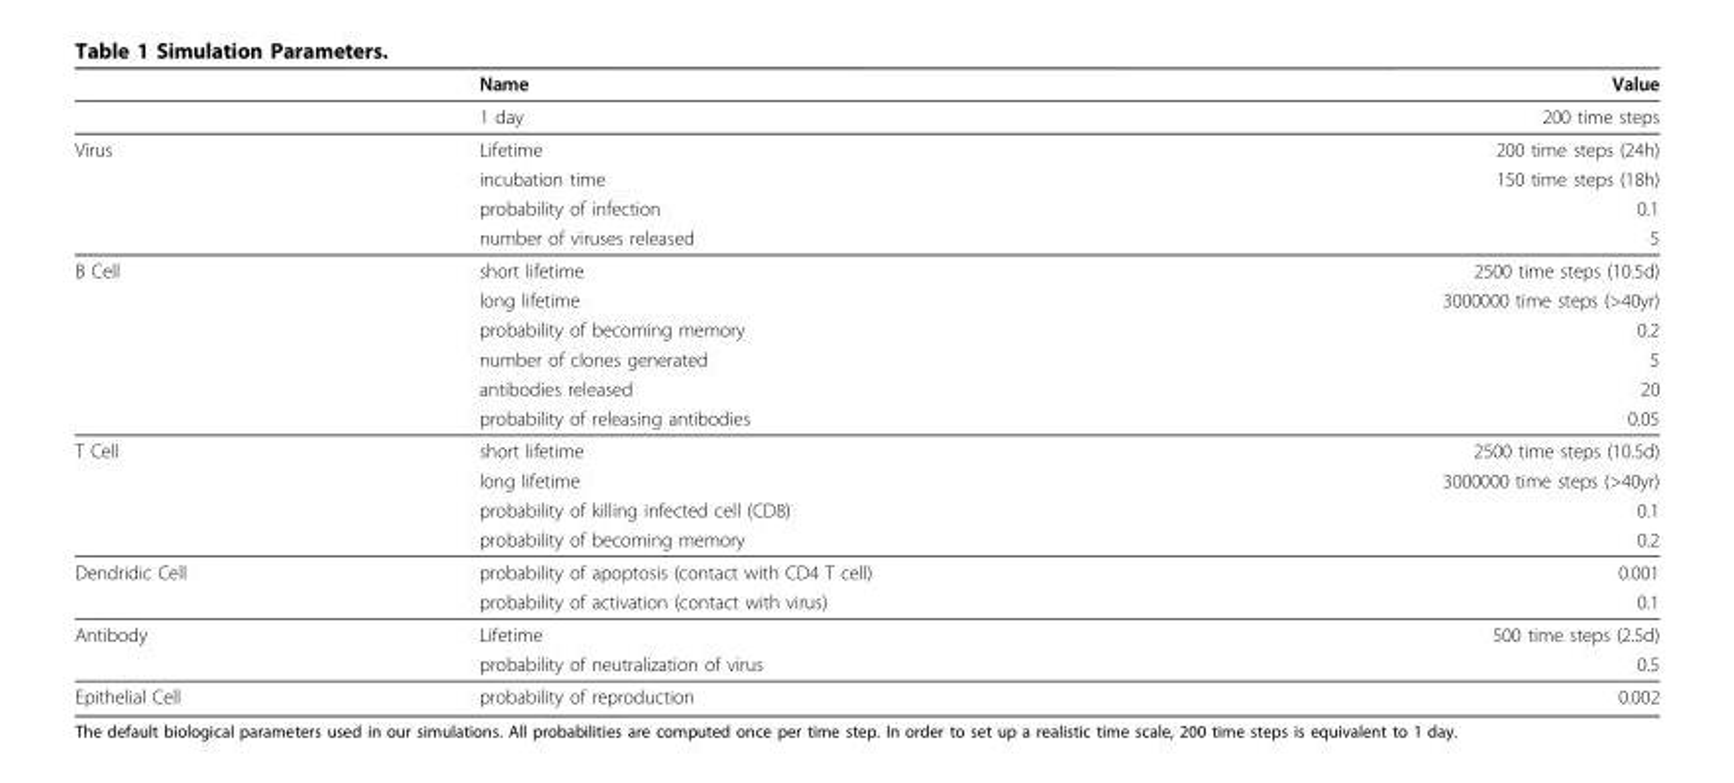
<table><thead><tr><td></td><td>Name</td><td>Value</td></tr></thead><tbody><tr><td></td><td>1 day</td><td>200 time steps</td></tr><tr><td rowspan="4">Virus</td><td>Lifetime</td><td>200 time steps (24h)</td></tr><tr><td>incubation time</td><td>150 time steps (18h)</td></tr><tr><td>probability of infection</td><td>0.1</td></tr><tr><td>number of viruses released</td><td>5</td></tr><tr><td rowspan="6">B Cell</td><td>short lifetime</td><td>2500 time steps (10.5d)</td></tr><tr><td>long lifetime</td><td>3000000 time steps (&gt;40yr)</td></tr><tr><td>probability of becoming memory</td><td>0.2</td></tr><tr><td>number of clones generated</td><td>5</td></tr><tr><td>antibodies released</td><td>20</td></tr><tr><td>probability of releasing antibodies</td><td>0.05</td></tr><tr><td rowspan="4">T Cell</td><td>short lifetime</td><td>2500 time steps (10.5d)</td></tr><tr><td>long lifetime</td><td>3000000 time steps (&gt;40yr)</td></tr><tr><td>probability of killing infected cell (CD8)</td><td>0.1</td></tr><tr><td>probability of becoming memory</td><td>0.2</td></tr><tr><td rowspan="2">Dendridic Cell</td><td>probability of apoptosis (contact with CD4 T cell)</td><td>0.001</td></tr><tr><td>probability of activation (contact with virus)</td><td>0.1</td></tr><tr><td rowspan="2">Antibody</td><td>Lifetime</td><td>500 time steps (2.5d)</td></tr><tr><td>probability of neutralization of virus</td><td>0.5</td></tr><tr><td>Epithelial Cell</td><td>probability of reproduction</td><td>0.002</td></tr></tbody></table>